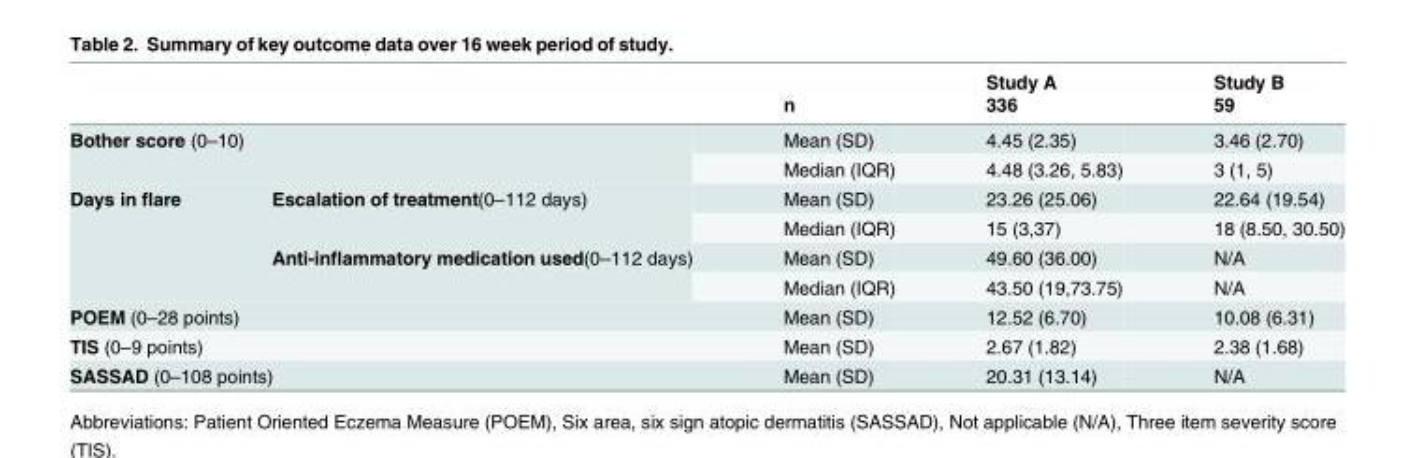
<table><thead><tr><td rowspan="2"></td><td rowspan="2"></td><td rowspan="2">n</td><td rowspan="2">Study A 336</td><td rowspan="2">Study B 59</td></tr><tr></tr></thead><tbody><tr><td rowspan="2" colspan="2">Bother score (0–10)</td><td>Mean (SD)</td><td>4.45 (2.35)</td><td>3.46 (2.70)</td></tr><tr><td>Median (IQR)</td><td>4.48 (3.26, 5.83)</td><td>3 (1, 5)</td></tr><tr><td rowspan="4">Days in flare</td><td rowspan="2">Escalation of treatment(0–112 days)</td><td>Mean (SD)</td><td>23.26 (25.06)</td><td>22.64 (19.54)</td></tr><tr><td>Median (IQR)</td><td>15 (3,37)</td><td>18 (8.50, 30.50)</td></tr><tr><td rowspan="2">Anti-inflammatory medication used(0–112 days)</td><td>Mean (SD)</td><td>49.60 (36.00)</td><td>N/A</td></tr><tr><td>Median (IQR)</td><td>43.50 (19,73.75)</td><td>N/A</td></tr><tr><td colspan="2">POEM (0–28 points)</td><td>Mean (SD)</td><td>12.52 (6.70)</td><td>10.08 (6.31)</td></tr><tr><td colspan="2">TIS (0–9 points)</td><td>Mean (SD)</td><td>2.67 (1.82)</td><td>2.38 (1.68)</td></tr><tr><td colspan="2">SASSAD (0–108 points)</td><td>Mean (SD)</td><td>20.31 (13.14)</td><td>N/A</td></tr></tbody></table>